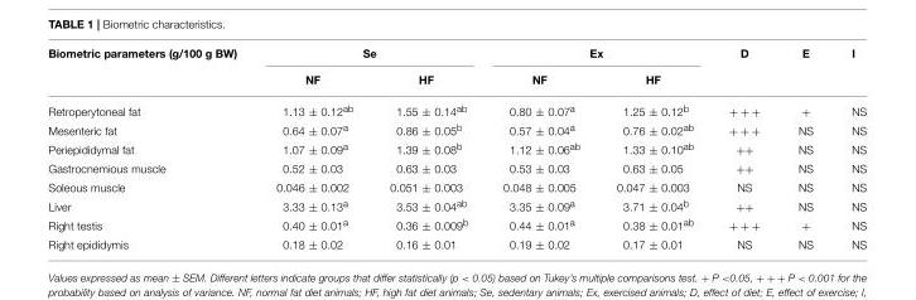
<table><thead><tr><td rowspan="2">Biometric parameters (g/100 g BW)</td><td colspan="2">Se</td><td colspan="2">Ex</td><td rowspan="2">D</td><td rowspan="2">E</td><td rowspan="2">I</td></tr><tr><td>NF</td><td>HF</td><td>NF</td><td>HF</td></tr></thead><tbody><tr><td>Retroperytoneal fat</td><td>1.13 ± 0.12<sup>ab</sup></td><td>1.55 ± 0.14<sup>ab</sup></td><td>0.80 ± 0.07<sup>a</sup></td><td>1.25 ± 0.12<sup>b</sup></td><td>+ + +</td><td>+</td><td>NS</td></tr><tr><td>Mesenteric fat</td><td>0.64 ± 0.07<sup>a</sup></td><td>0.86 ± 0.05<sup>b</sup></td><td>0.57 ± 0.04<sup>a</sup></td><td>0.76 ± 0.02<sup>ab</sup></td><td>+ + +</td><td>NS</td><td>NS</td></tr><tr><td>Periepididymal fat</td><td>1.07 ± 0.09<sup>a</sup></td><td>1.39 ± 0.08<sup>b</sup></td><td>1.12 ± 0.06<sup>ab</sup></td><td>1.33 ± 0.10<sup>ab</sup></td><td>++</td><td>NS</td><td>NS</td></tr><tr><td>Gastrocnemious muscle</td><td>0.52 ± 0.03</td><td>0.63 ± 0.03</td><td>0.53 ± 0.03</td><td>0.63 ± 0.05</td><td>++</td><td>NS</td><td>NS</td></tr><tr><td>Soleous muscle</td><td>0.046 ± 0.002</td><td>0.051 ± 0.003</td><td>0.048 ± 0.005</td><td>0.047 ± 0.003</td><td>NS</td><td>NS</td><td>NS</td></tr><tr><td>Liver</td><td>3.33 ± 0.13<sup>a</sup></td><td>3.53 ± 0.04<sup>ab</sup></td><td>3.35 ± 0.09<sup>a</sup></td><td>3.71 ± 0.04<sup>b</sup></td><td>++</td><td>NS</td><td>NS</td></tr><tr><td>Right testis</td><td>0.40 ± 0.01<sup>a</sup></td><td>0.36 ± 0.009<sup>b</sup></td><td>0.44 ± 0.01<sup>a</sup></td><td>0.38 ± 0.01<sup>ab</sup></td><td>+ + +</td><td>+</td><td>NS</td></tr><tr><td>Right epididymis</td><td>0.18 ± 0.02</td><td>0.16 ± 0.01</td><td>0.19 ± 0.02</td><td>0.17 ± 0.01</td><td>NS</td><td>NS</td><td>NS</td></tr></tbody></table>